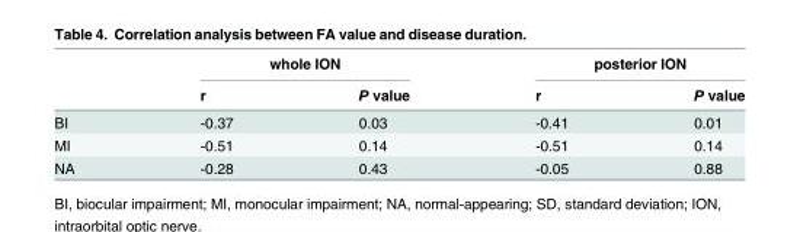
<table><thead><tr><td rowspan="2"></td><td colspan="2">whole ION</td><td colspan="2">posterior ION</td></tr><tr><td>r</td><td>P value</td><td>r</td><td>P value</td></tr></thead><tbody><tr><td>BI</td><td>-0.37</td><td>0.03</td><td>-0.41</td><td>0.01</td></tr><tr><td>MI</td><td>-0.51</td><td>0.14</td><td>-0.51</td><td>0.14</td></tr><tr><td>NA</td><td>-0.28</td><td>0.43</td><td>-0.05</td><td>0.88</td></tr></tbody></table>